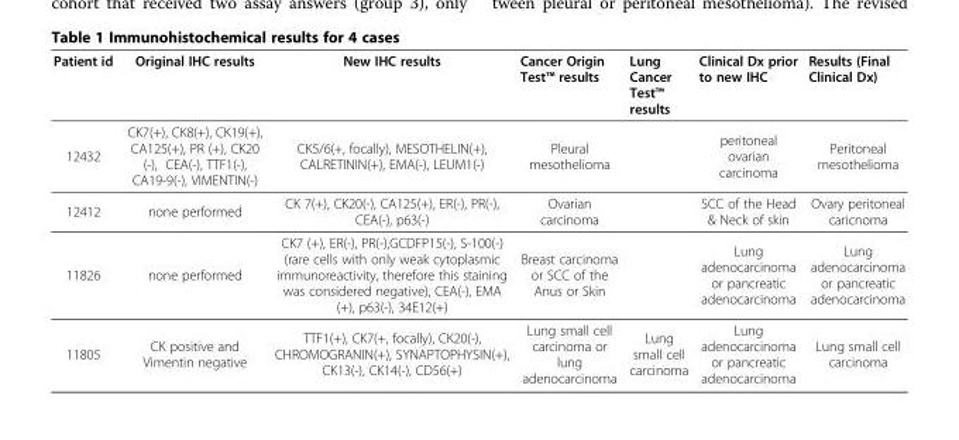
<table><thead><tr><td>Patient id</td><td>Original IHC results</td><td>New IHC results</td><td>Cancer Origin Test™ results</td><td>Lung Cancer Test™ results</td><td>Clinical Dx prior to new IHC</td><td>Results (Final Clinical Dx)</td></tr></thead><tbody><tr><td>12432</td><td>CK7(+), CK8(+), CK19(+), CA125(+), PR (+), CK20 (-), CEA(-), TTF1(-), CA19-9(-), VIMENTIN(-)</td><td>CK5/6(+, focally), MESOTHELIN(+), CALRETININ(+), EMA(-), LEUM1(-)</td><td>Pleural mesothelioma</td><td></td><td>peritoneal ovarian carcinoma</td><td>Peritoneal mesothelioma</td></tr><tr><td>12412</td><td>none performed</td><td>CK 7(+), CK20(-), CA125(+), ER(-), PR(-), CEA(-), p63(-)</td><td>Ovarian carcinoma</td><td></td><td>SCC of the Head &amp; Neck of skin</td><td>Ovary peritoneal caricnoma</td></tr><tr><td>11826</td><td>none performed</td><td>CK7 (+), ER(-), PR(-),GCDFP15(-), S-100(-) (rare cells with only weak cytoplasmic immunoreactivity, therefore this staining was considered negative), CEA(-), EMA (+), p63(-), 34E12(+)</td><td>Breast carcinoma or SCC of the Anus or Skin</td><td></td><td>Lung adenocarcinoma or pancreatic adenocarcinoma</td><td>Lung adenocarcinoma or pancreatic adenocarcinoma</td></tr><tr><td>11805</td><td>CK positive and Vimentin negative</td><td>TTF1(+), CK7(+, focally), CK20(-), CHROMOGRANIN(+), SYNAPTOPHYSIN(+), CK13(-), CK14(-), CD56(+)</td><td>Lung small cell carcinoma or lung adenocarcinoma</td><td>Lung small cell carcinoma</td><td>Lung adenocarcinoma or pancreatic adenocarcinoma</td><td>Lung small cell carcinoma</td></tr></tbody></table>